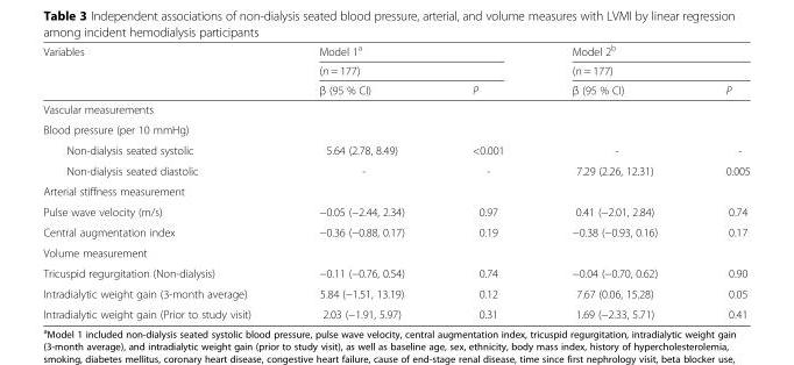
<table><thead><tr><td rowspan="3">Variables</td><td rowspan="2" colspan="2">Model 1<sup>a</sup> (n = 177)</td><td rowspan="2" colspan="2">Model 2<sup>b</sup> (n = 177)</td></tr><tr></tr><tr><td>β (95 % CI)</td><td>P</td><td>β (95 % CI)</td><td>P</td></tr></thead><tbody><tr><td colspan="5">Vascular measurements</td></tr><tr><td colspan="5">Blood pressure (per 10 mmHg)</td></tr><tr><td>Non-dialysis seated systolic</td><td>5.64 (2.78, 8.49)</td><td>&lt;0.001</td><td>-</td><td>-</td></tr><tr><td>Non-dialysis seated diastolic</td><td>-</td><td>-</td><td>7.29 (2.26, 12.31)</td><td>0.005</td></tr><tr><td colspan="5">Arterial stiffness measurement</td></tr><tr><td>Pulse wave velocity (m/s)</td><td>−0.05 (−2.44, 2.34)</td><td>0.97</td><td>0.41 (−2.01, 2.84)</td><td>0.74</td></tr><tr><td>Central augmentation index</td><td>−0.36 (−0.88, 0.17)</td><td>0.19</td><td>−0.38 (−0.93, 0.16)</td><td>0.17</td></tr><tr><td colspan="5">Volume measurement</td></tr><tr><td>Tricuspid regurgitation (Non-dialysis)</td><td>−0.11 (−0.76, 0.54)</td><td>0.74</td><td>−0.04 (−0.70, 0.62)</td><td>0.90</td></tr><tr><td>Intradialytic weight gain (3-month average)</td><td>5.84 (−1.51, 13.19)</td><td>0.12</td><td>7.67 (0.06, 15.28)</td><td>0.05</td></tr><tr><td>Intradialytic weight gain (Prior to study visit)</td><td>2.03 (−1.91, 5.97)</td><td>0.31</td><td>1.69 (−2.33, 5.71)</td><td>0.41</td></tr></tbody></table>